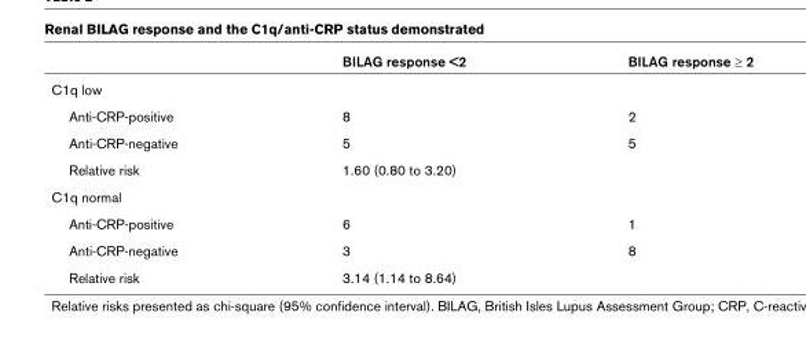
<table><thead><tr><td></td><td>BILAG response &lt;2</td><td>BILAG response ≥ 2</td></tr></thead><tbody><tr><td colspan="3">C1q low</td></tr><tr><td>Anti-CRP-positive</td><td>8</td><td>2</td></tr><tr><td>Anti-CRP-negative</td><td>5</td><td>5</td></tr><tr><td>Relative risk</td><td>1.60 (0.80 to 3.20)</td><td></td></tr><tr><td colspan="3">C1q normal</td></tr><tr><td>Anti-CRP-positive</td><td>6</td><td>1</td></tr><tr><td>Anti-CRP-negative</td><td>3</td><td>8</td></tr><tr><td>Relative risk</td><td>3.14 (1.14 to 8.64)</td><td></td></tr></tbody></table>